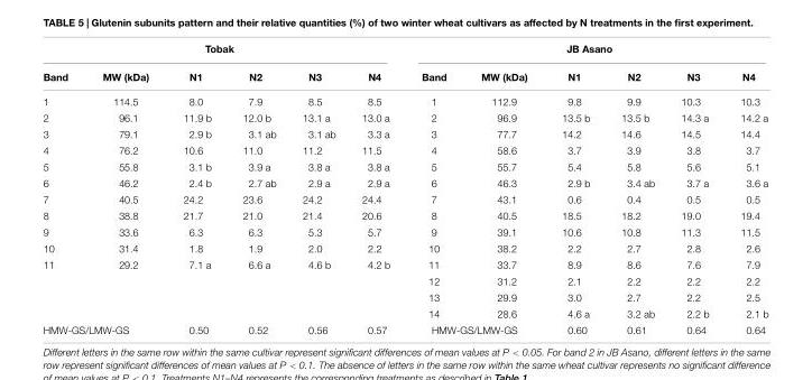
<table><thead><tr><td colspan="6">Tobak</td><td colspan="6">JB Asano</td></tr><tr><td>Band</td><td>MW (kDa)</td><td>N1</td><td>N2</td><td>N3</td><td>N4</td><td>Band</td><td>MW (kDa)</td><td>N1</td><td>N2</td><td>N3</td><td>N4</td></tr></thead><tbody><tr><td>1</td><td>114.5</td><td>8.0</td><td>7.9</td><td>8.5</td><td>8.5</td><td>1</td><td>112.9</td><td>9.8</td><td>9.9</td><td>10.3</td><td>10.3</td></tr><tr><td>2</td><td>96.1</td><td>11.9 b</td><td>12.0 b</td><td>13.1 a</td><td>13.0 a</td><td>2</td><td>96.9</td><td>13.5 b</td><td>13.5 b</td><td>14.3 a</td><td>14.2 a</td></tr><tr><td>3</td><td>79.1</td><td>2.9 b</td><td>3.1 ab</td><td>3.1 ab</td><td>3.3 a</td><td>3</td><td>77.7</td><td>14.2</td><td>14.6</td><td>14.5</td><td>14.4</td></tr><tr><td>4</td><td>76.2</td><td>10.6</td><td>11.0</td><td>11.2</td><td>11.5</td><td>4</td><td>58.6</td><td>3.7</td><td>3.9</td><td>3.8</td><td>3.7</td></tr><tr><td>5</td><td>55.8</td><td>3.1 b</td><td>3.9 a</td><td>3.8 a</td><td>3.8 a</td><td>5</td><td>55.7</td><td>5.4</td><td>5.8</td><td>5.6</td><td>5.1</td></tr><tr><td>6</td><td>46.2</td><td>2.4 b</td><td>2.7 ab</td><td>2.9 a</td><td>2.9 a</td><td>6</td><td>46.3</td><td>2.9 b</td><td>3.4 ab</td><td>3.7 a</td><td>3.6 a</td></tr><tr><td>7</td><td>40.5</td><td>24.2</td><td>23.6</td><td>24.2</td><td>24.4</td><td>7</td><td>43.1</td><td>0.6</td><td>0.4</td><td>0.5</td><td>0.5</td></tr><tr><td>8</td><td>38.8</td><td>21.7</td><td>21.0</td><td>21.4</td><td>20.6</td><td>8</td><td>40.5</td><td>18.5</td><td>18.2</td><td>19.0</td><td>19.4</td></tr><tr><td>9</td><td>33.6</td><td>6.3</td><td>6.3</td><td>5.3</td><td>5.7</td><td>9</td><td>39.1</td><td>10.6</td><td>10.8</td><td>11.3</td><td>11.5</td></tr><tr><td>10</td><td>31.4</td><td>1.8</td><td>1.9</td><td>2.0</td><td>2.2</td><td>10</td><td>38.2</td><td>2.2</td><td>2.7</td><td>2.8</td><td>2.6</td></tr><tr><td rowspan="4">11</td><td>29.2</td><td>7.1 a</td><td>6.6 a</td><td>4.6 b</td><td>4.2 b</td><td>11</td><td>33.7</td><td>8.9</td><td>8.6</td><td>7.6</td><td>7.9</td></tr><tr><td></td><td></td><td></td><td></td><td></td><td>12</td><td>31.2</td><td>2.1</td><td>2.2</td><td>2.2</td><td>2.2</td></tr><tr><td></td><td></td><td></td><td></td><td></td><td>13</td><td>29.9</td><td>3.0</td><td>2.7</td><td>2.2</td><td>2.5</td></tr><tr><td></td><td></td><td></td><td></td><td></td><td>14</td><td>28.6</td><td>4.6 a</td><td>3.2 ab</td><td>2.2 b</td><td>2.1 b</td></tr><tr><td colspan="2">HMW-GS/LMW-GS</td><td>0.50</td><td>0.52</td><td>0.56</td><td>0.57</td><td colspan="2">HMW-GS/LMW-GS</td><td>0.60</td><td>0.61</td><td>0.64</td><td>0.64</td></tr></tbody></table>